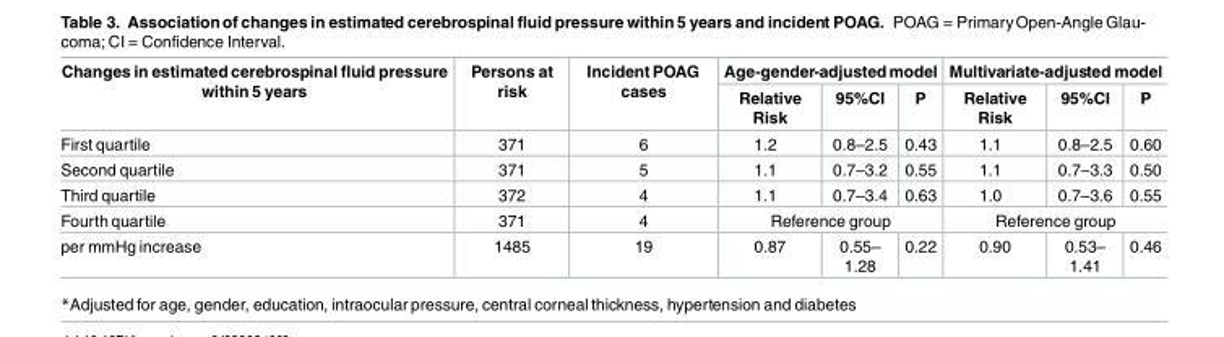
<table><thead><tr><td rowspan="2">Changes in estimated cerebrospinal fluid pressure within 5 years</td><td rowspan="2">Persons at risk</td><td rowspan="2">Incident POAG cases</td><td colspan="3">Age-gender-adjusted model</td><td colspan="3">Multivariate-adjusted model</td></tr><tr><td>Relative Risk</td><td>95%CI</td><td>P</td><td>Relative Risk</td><td>95%CI</td><td>P</td></tr></thead><tbody><tr><td>First quartile</td><td>371</td><td>6</td><td>1.2</td><td>0.8–2.5</td><td>0.43</td><td>1.1</td><td>0.8–2.5</td><td>0.60</td></tr><tr><td>Second quartile</td><td>371</td><td>5</td><td>1.1</td><td>0.7–3.2</td><td>0.55</td><td>1.1</td><td>0.7–3.3</td><td>0.50</td></tr><tr><td>Third quartile</td><td>372</td><td>4</td><td>1.1</td><td>0.7–3.4</td><td>0.63</td><td>1.0</td><td>0.7–3.6</td><td>0.55</td></tr><tr><td>Fourth quartile</td><td>371</td><td>4</td><td colspan="3">Reference group</td><td colspan="3">Reference group</td></tr><tr><td>per mmHg increase</td><td>1485</td><td>19</td><td>0.87</td><td>0.55– 1.28</td><td>0.22</td><td>0.90</td><td>0.53– 1.41</td><td>0.46</td></tr></tbody></table>